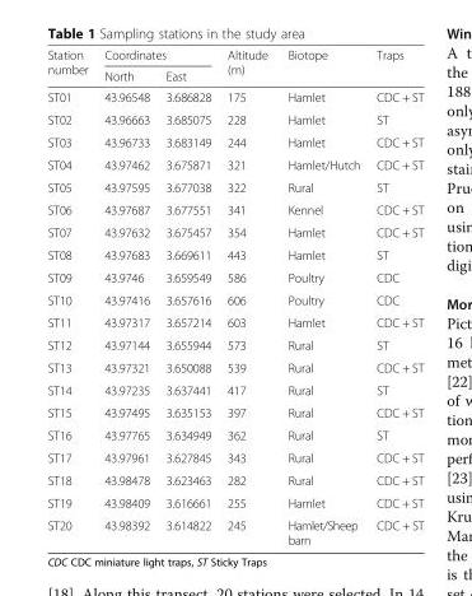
<table><thead><tr><td rowspan="2">Station number</td><td colspan="2">Coordinates</td><td rowspan="2">Altitude (m)</td><td rowspan="2">Biotope</td><td rowspan="2">Traps</td></tr><tr><td>North</td><td>East</td></tr></thead><tbody><tr><td>ST01</td><td>43.96548</td><td>3.686828</td><td>175</td><td>Hamlet</td><td>CDC + ST</td></tr><tr><td>ST02</td><td>43.96663</td><td>3.685075</td><td>228</td><td>Hamlet</td><td>ST</td></tr><tr><td>ST03</td><td>43.96733</td><td>3.683149</td><td>244</td><td>Hamlet</td><td>CDC + ST</td></tr><tr><td>ST04</td><td>43.97462</td><td>3.675871</td><td>321</td><td>Hamlet/Hutch</td><td>CDC + ST</td></tr><tr><td>ST05</td><td>43.97595</td><td>3.677038</td><td>322</td><td>Rural</td><td>ST</td></tr><tr><td>ST06</td><td>43.97687</td><td>3.677551</td><td>341</td><td>Kennel</td><td>CDC + ST</td></tr><tr><td>ST07</td><td>43.97632</td><td>3.675457</td><td>354</td><td>Hamlet</td><td>CDC + ST</td></tr><tr><td>ST08</td><td>43.97683</td><td>3.669611</td><td>443</td><td>Hamlet</td><td>ST</td></tr><tr><td>ST09</td><td>43.9746</td><td>3.659549</td><td>586</td><td>Poultry</td><td>CDC</td></tr><tr><td>ST10</td><td>43.97416</td><td>3.657616</td><td>606</td><td>Poultry</td><td>CDC</td></tr><tr><td>ST11</td><td>43.97317</td><td>3.657214</td><td>603</td><td>Hamlet</td><td>CDC + ST</td></tr><tr><td>ST12</td><td>43.97144</td><td>3.655944</td><td>573</td><td>Rural</td><td>ST</td></tr><tr><td>ST13</td><td>43.97321</td><td>3.650088</td><td>539</td><td>Rural</td><td>CDC + ST</td></tr><tr><td>ST14</td><td>43.97235</td><td>3.637441</td><td>417</td><td>Rural</td><td>ST</td></tr><tr><td>ST15</td><td>43.97495</td><td>3.635153</td><td>397</td><td>Rural</td><td>CDC + ST</td></tr><tr><td>ST16</td><td>43.97765</td><td>3.634949</td><td>362</td><td>Rural</td><td>ST</td></tr><tr><td>ST17</td><td>43.97961</td><td>3.627845</td><td>343</td><td>Rural</td><td>CDC + ST</td></tr><tr><td>ST18</td><td>43.98478</td><td>3.623463</td><td>282</td><td>Rural</td><td>CDC + ST</td></tr><tr><td>ST19</td><td>43.98409</td><td>3.616661</td><td>255</td><td>Hamlet</td><td>CDC + ST</td></tr><tr><td>ST20</td><td>43.98392</td><td>3.614822</td><td>245</td><td>Hamlet/Sheep barn</td><td>CDC + ST</td></tr></tbody></table>